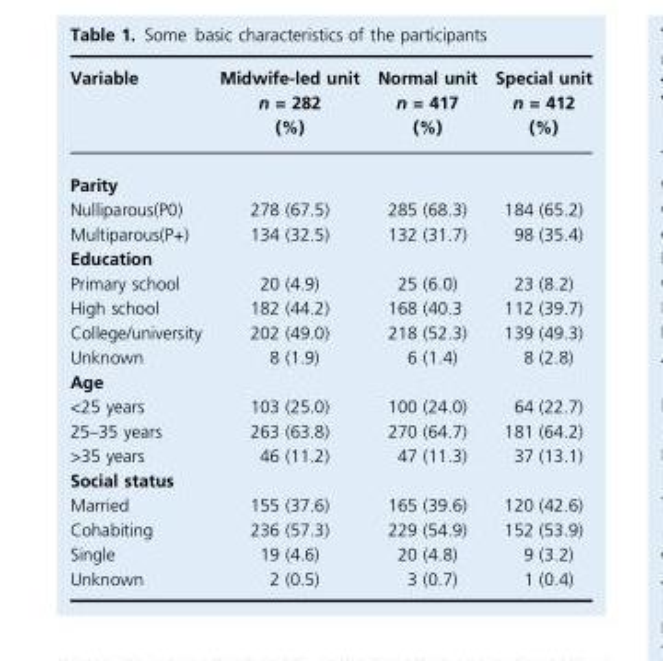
<table><thead><tr><td>Variable</td><td>Midwife-led unit n = 282 (%)</td><td>Normal unit n = 417 (%)</td><td>Special unit n = 412 (%)</td></tr></thead><tbody><tr><td colspan="4">Parity</td></tr><tr><td>Nulliparous(P0)</td><td>278 (67.5)</td><td>285 (68.3)</td><td>184 (65.2)</td></tr><tr><td>Multiparous(P+)</td><td>134 (32.5)</td><td>132 (31.7)</td><td>98 (35.4)</td></tr><tr><td colspan="4">Education</td></tr><tr><td>Primary school</td><td>20 (4.9)</td><td>25 (6.0)</td><td>23 (8.2)</td></tr><tr><td>High school</td><td>182 (44.2)</td><td>168 (40.3</td><td>112 (39.7)</td></tr><tr><td>College/university</td><td>202 (49.0)</td><td>218 (52.3)</td><td>139 (49.3)</td></tr><tr><td>Unknown</td><td>8 (1.9)</td><td>6 (1.4)</td><td>8 (2.8)</td></tr><tr><td colspan="4">Age</td></tr><tr><td>&lt;25 years</td><td>103 (25.0)</td><td>100 (24.0)</td><td>64 (22.7)</td></tr><tr><td>25–35 years</td><td>263 (63.8)</td><td>270 (64.7)</td><td>181 (64.2)</td></tr><tr><td>&gt;35 years</td><td>46 (11.2)</td><td>47 (11.3)</td><td>37 (13.1)</td></tr><tr><td colspan="4">Social status</td></tr><tr><td>Married</td><td>155 (37.6)</td><td>165 (39.6)</td><td>120 (42.6)</td></tr><tr><td>Cohabiting</td><td>236 (57.3)</td><td>229 (54.9)</td><td>152 (53.9)</td></tr><tr><td>Single</td><td>19 (4.6)</td><td>20 (4.8)</td><td>9 (3.2)</td></tr><tr><td>Unknown</td><td>2 (0.5)</td><td>3 (0.7)</td><td>1 (0.4)</td></tr></tbody></table>